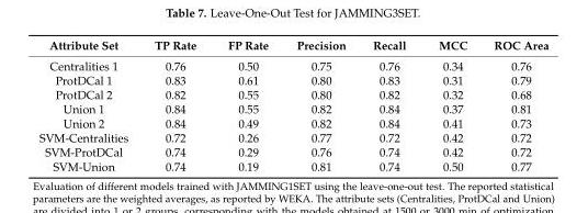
<table><thead><tr><td>Attribute Set</td><td>TP Rate</td><td>FP Rate</td><td>Precision</td><td>Recall</td><td>MCC</td><td>ROC Area</td></tr></thead><tbody><tr><td>Centralities 1</td><td>0.76</td><td>0.50</td><td>0.75</td><td>0.76</td><td>0.34</td><td>0.76</td></tr><tr><td>ProtDCal 1</td><td>0.83</td><td>0.61</td><td>0.80</td><td>0.83</td><td>0.31</td><td>0.79</td></tr><tr><td>ProtDCal 2</td><td>0.82</td><td>0.55</td><td>0.80</td><td>0.82</td><td>0.32</td><td>0.68</td></tr><tr><td>Union 1</td><td>0.84</td><td>0.55</td><td>0.82</td><td>0.84</td><td>0.37</td><td>0.81</td></tr><tr><td>Union 2</td><td>0.84</td><td>0.49</td><td>0.82</td><td>0.84</td><td>0.41</td><td>0.73</td></tr><tr><td>SVM-Centralities</td><td>0.72</td><td>0.26</td><td>0.77</td><td>0.72</td><td>0.42</td><td>0.72</td></tr><tr><td>SVM-ProtDCal</td><td>0.74</td><td>0.29</td><td>0.76</td><td>0.74</td><td>0.42</td><td>0.72</td></tr><tr><td>SVM-Union</td><td>0.74</td><td>0.19</td><td>0.81</td><td>0.74</td><td>0.50</td><td>0.77</td></tr></tbody></table>